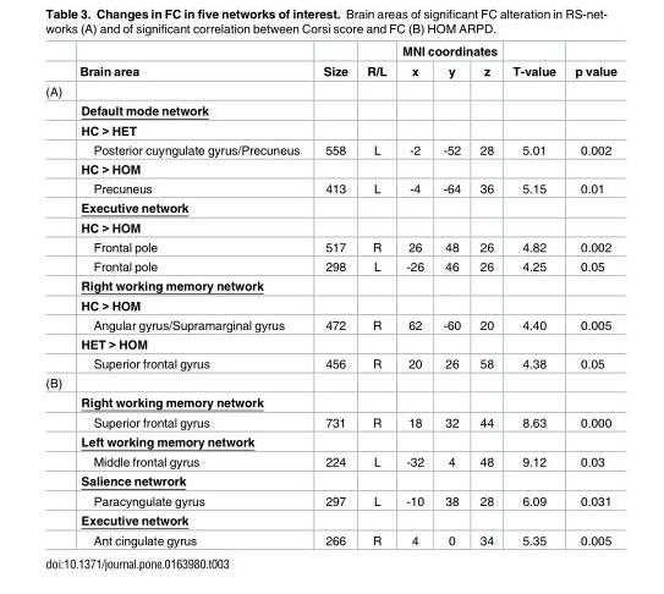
<table><thead><tr><td rowspan="2"></td><td rowspan="2">Brain area</td><td rowspan="2">Size</td><td rowspan="2">R/L</td><td colspan="3">MNI coordinates</td><td rowspan="2">T-value</td><td rowspan="2">p value</td></tr><tr><td>x</td><td>y</td><td>z</td></tr></thead><tbody><tr><td colspan="9">(A)</td></tr><tr><td></td><td>Default mode network</td><td></td><td></td><td></td><td></td><td></td><td></td><td></td></tr><tr><td></td><td>HC &gt; HET</td><td></td><td></td><td></td><td></td><td></td><td></td><td></td></tr><tr><td></td><td>Posterior cuyngulate gyrus/Precuneus</td><td>558</td><td>L</td><td>-2</td><td>-52</td><td>28</td><td>5.01</td><td>0.002</td></tr><tr><td></td><td>HC &gt; HOM</td><td></td><td></td><td></td><td></td><td></td><td></td><td></td></tr><tr><td></td><td>Precuneus</td><td>413</td><td>L</td><td>-4</td><td>-64</td><td>36</td><td>5.15</td><td>0.01</td></tr><tr><td></td><td>Executive network</td><td></td><td></td><td></td><td></td><td></td><td></td><td></td></tr><tr><td></td><td>HC &gt; HOM</td><td></td><td></td><td></td><td></td><td></td><td></td><td></td></tr><tr><td></td><td>Frontal pole</td><td>517</td><td>R</td><td>26</td><td>48</td><td>26</td><td>4.82</td><td>0.002</td></tr><tr><td></td><td>Frontal pole</td><td>298</td><td>L</td><td>-26</td><td>46</td><td>26</td><td>4.25</td><td>0.05</td></tr><tr><td></td><td>Right working memory network</td><td></td><td></td><td></td><td></td><td></td><td></td><td></td></tr><tr><td></td><td>HC &gt; HOM</td><td></td><td></td><td></td><td></td><td></td><td></td><td></td></tr><tr><td></td><td>Angular gyrus/Supramarginal gyrus</td><td>472</td><td>R</td><td>62</td><td>-60</td><td>20</td><td>4.40</td><td>0.005</td></tr><tr><td></td><td>HET &gt; HOM</td><td></td><td></td><td></td><td></td><td></td><td></td><td></td></tr><tr><td></td><td>Superior frontal gyrus</td><td>456</td><td>R</td><td>20</td><td>26</td><td>58</td><td>4.38</td><td>0.05</td></tr><tr><td colspan="9">(B)</td></tr><tr><td></td><td>Right working memory network</td><td></td><td></td><td></td><td></td><td></td><td></td><td></td></tr><tr><td></td><td>Superior frontal gyrus</td><td>731</td><td>R</td><td>18</td><td>32</td><td>44</td><td>8.63</td><td>0.000</td></tr><tr><td></td><td>Left working memory network</td><td></td><td></td><td></td><td></td><td></td><td></td><td></td></tr><tr><td></td><td>Middle frontal gyrus</td><td>224</td><td>L</td><td>-32</td><td>4</td><td>48</td><td>9.12</td><td>0.03</td></tr><tr><td></td><td>Salience netwrork</td><td></td><td></td><td></td><td></td><td></td><td></td><td></td></tr><tr><td></td><td>Paracyngulate gyrus</td><td>297</td><td>L</td><td>-10</td><td>38</td><td>28</td><td>6.09</td><td>0.031</td></tr><tr><td></td><td>Executive network</td><td></td><td></td><td></td><td></td><td></td><td></td><td></td></tr><tr><td></td><td>Ant cingulate gyrus</td><td>266</td><td>R</td><td>4</td><td>0</td><td>34</td><td>5.35</td><td>0.005</td></tr></tbody></table>